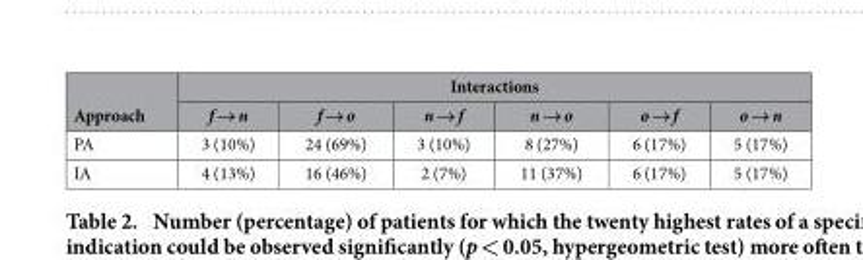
<table><thead><tr><td rowspan="2">Approach</td><td colspan="6">Interactions</td></tr><tr><td>f → n</td><td>f → o</td><td>n → f</td><td>n → o</td><td>o → f</td><td>o → n</td></tr></thead><tbody><tr><td>PA</td><td>3 (10%)</td><td>24 (69%)</td><td>3 (10%)</td><td>8 (27%)</td><td>6 (17%)</td><td>5 (17%)</td></tr><tr><td>IA</td><td>4 (13%)</td><td>16 (46%)</td><td>2 (7%)</td><td>11 (37%)</td><td>6 (17%)</td><td>5 (17%)</td></tr></tbody></table>